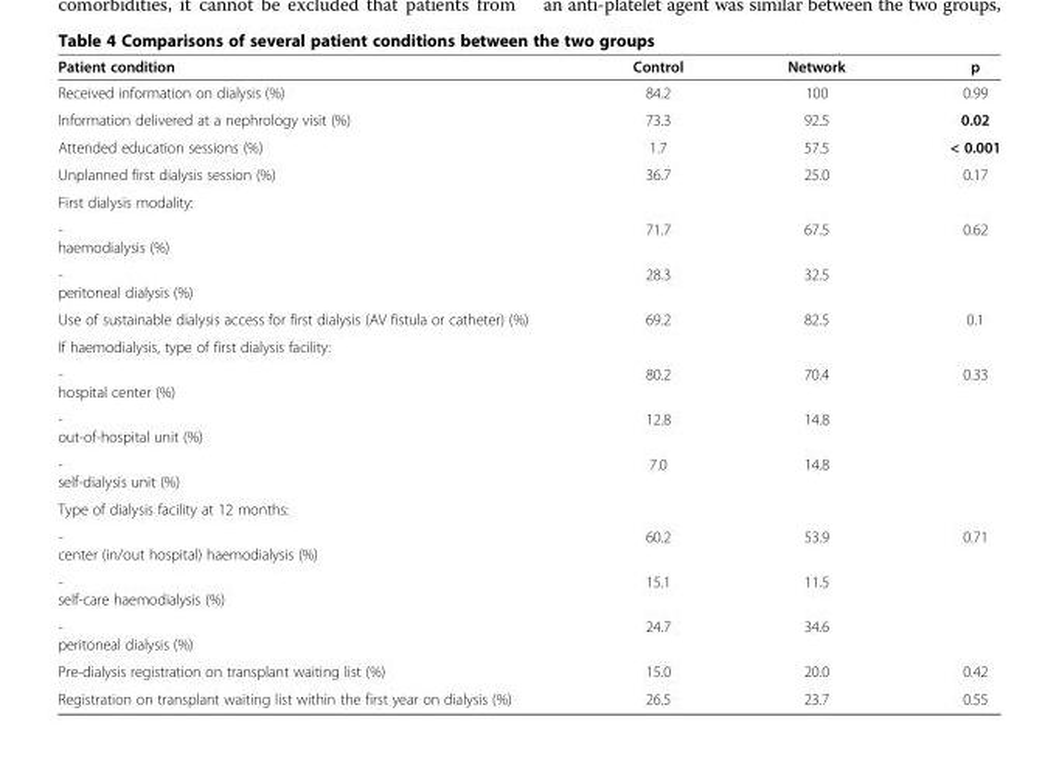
<table><thead><tr><td>Patient condition</td><td>Control</td><td>Network</td><td>p</td></tr></thead><tbody><tr><td>Received information on dialysis (%)</td><td>84.2</td><td>100</td><td>0.99</td></tr><tr><td>Information delivered at a nephrology visit (%)</td><td>73.3</td><td>92.5</td><td>0.02</td></tr><tr><td>Attended education sessions (%)</td><td>1.7</td><td>57.5</td><td>&lt; 0.001</td></tr><tr><td>Unplanned first dialysis session (%)</td><td>36.7</td><td>25.0</td><td>0.17</td></tr><tr><td colspan="4">First dialysis modality:</td></tr><tr><td>- haemodialysis (%)</td><td>71.7</td><td>67.5</td><td rowspan="2">0.62</td></tr><tr><td>- peritoneal dialysis (%)</td><td>28.3</td><td>32.5</td></tr><tr><td>Use of sustainable dialysis access for first dialysis (AV fistula or catheter) (%)</td><td>69.2</td><td>82.5</td><td>0.1</td></tr><tr><td colspan="4">If haemodialysis, type of first dialysis facility:</td></tr><tr><td>- hospital center (%)</td><td>80.2</td><td>70.4</td><td rowspan="3">0.33</td></tr><tr><td>- out-of-hospital unit (%)</td><td>12.8</td><td>14.8</td></tr><tr><td>- self-dialysis unit (%)</td><td>7.0</td><td>14.8</td></tr><tr><td colspan="4">Type of dialysis facility at 12 months:</td></tr><tr><td>- center (in/out hospital) haemodialysis (%)</td><td>60.2</td><td>53.9</td><td rowspan="3">0.71</td></tr><tr><td>- self-care haemodialysis (%)</td><td>15.1</td><td>11.5</td></tr><tr><td>- peritoneal dialysis (%)</td><td>24.7</td><td>34.6</td></tr><tr><td>Pre-dialysis registration on transplant waiting list (%)</td><td>15.0</td><td>20.0</td><td>0.42</td></tr><tr><td>Registration on transplant waiting list within the first year on dialysis (%)</td><td>26.5</td><td>23.7</td><td>0.55</td></tr></tbody></table>